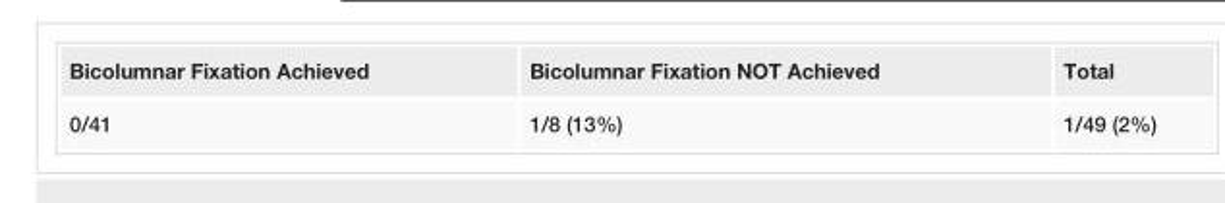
<table><tbody><tr><td>Bicolumnar Fixation Achieved</td><td>Bicolumnar Fixation NOT Achieved</td><td>Total</td></tr><tr><td>0/41</td><td>1/8 (13%)</td><td>1/49 (2%)</td></tr></tbody></table>